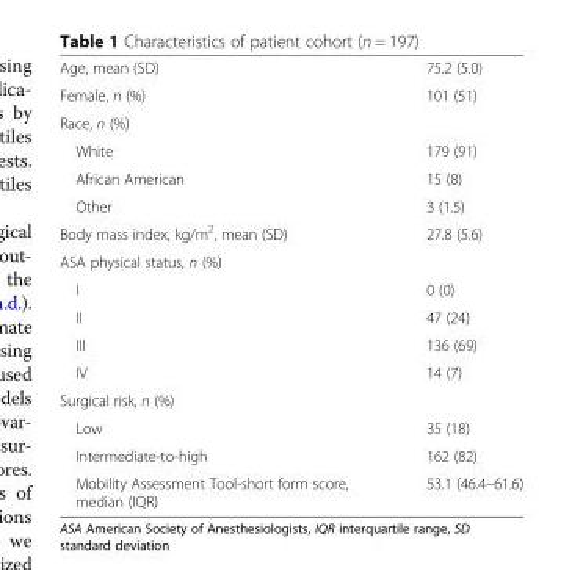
<table><tbody><tr><td>Age, mean (SD)</td><td>75.2 (5.0)</td></tr><tr><td>Female, n (%)</td><td>101 (51)</td></tr><tr><td colspan="2">Race, n (%)</td></tr><tr><td>White</td><td>179 (91)</td></tr><tr><td>African American</td><td>15 (8)</td></tr><tr><td>Other</td><td>3 (1.5)</td></tr><tr><td>Body mass index, kg/m<sup>2</sup>, mean (SD)</td><td>27.8 (5.6)</td></tr><tr><td colspan="2">ASA physical status, n (%)</td></tr><tr><td>I</td><td>0 (0)</td></tr><tr><td>II</td><td>47 (24)</td></tr><tr><td>III</td><td>136 (69)</td></tr><tr><td>IV</td><td>14 (7)</td></tr><tr><td colspan="2">Surgical risk, n (%)</td></tr><tr><td>Low</td><td>35 (18)</td></tr><tr><td>Intermediate-to-high</td><td>162 (82)</td></tr><tr><td>Mobility Assessment Tool-short form score, median (IQR)</td><td>53.1 (46.4–61.6)</td></tr></tbody></table>